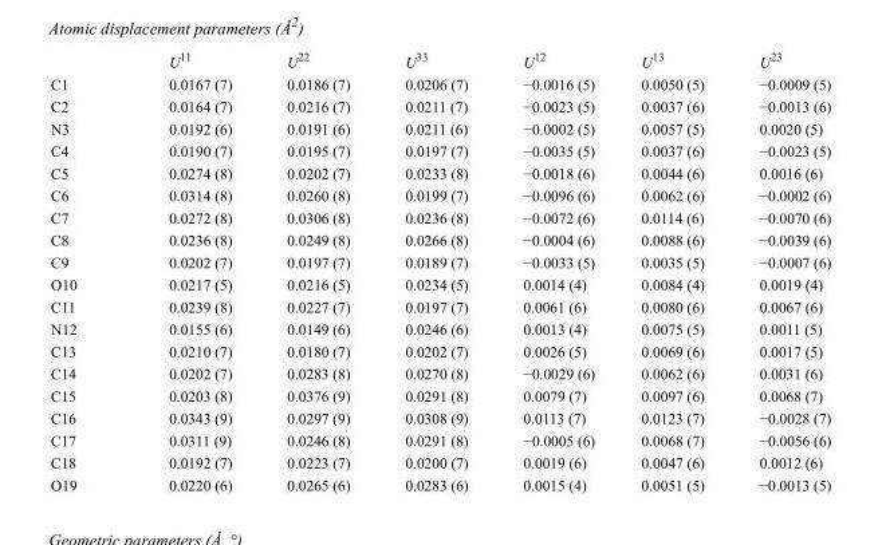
<table><thead><tr><td></td><td>U<sup>11</sup></td><td>U<sup>22</sup></td><td>U<sup>33</sup></td><td>U<sup>12</sup></td><td>U<sup>13</sup></td><td>U<sup>23</sup></td></tr></thead><tbody><tr><td>C1</td><td>0.0167 (7)</td><td>0.0186 (7)</td><td>0.0206 (7)</td><td>−0.0016 (5)</td><td>0.0050 (5)</td><td>−0.0009 (5)</td></tr><tr><td>C2</td><td>0.0164 (7)</td><td>0.0216 (7)</td><td>0.0211 (7)</td><td>−0.0023 (5)</td><td>0.0037 (6)</td><td>−0.0013 (6)</td></tr><tr><td>N3</td><td>0.0192 (6)</td><td>0.0191 (6)</td><td>0.0211 (6)</td><td>−0.0002 (5)</td><td>0.0057 (5)</td><td>0.0020 (5)</td></tr><tr><td>C4</td><td>0.0190 (7)</td><td>0.0195 (7)</td><td>0.0197 (7)</td><td>−0.0035 (5)</td><td>0.0037 (6)</td><td>−0.0023 (5)</td></tr><tr><td>C5</td><td>0.0274 (8)</td><td>0.0202 (7)</td><td>0.0233 (8)</td><td>−0.0018 (6)</td><td>0.0044 (6)</td><td>0.0016 (6)</td></tr><tr><td>C6</td><td>0.0314 (8)</td><td>0.0260 (8)</td><td>0.0199 (7)</td><td>−0.0096 (6)</td><td>0.0062 (6)</td><td>−0.0002 (6)</td></tr><tr><td>C7</td><td>0.0272 (8)</td><td>0.0306 (8)</td><td>0.0236 (8)</td><td>−0.0072 (6)</td><td>0.0114 (6)</td><td>−0.0070 (6)</td></tr><tr><td>C8</td><td>0.0236 (8)</td><td>0.0249 (8)</td><td>0.0266 (8)</td><td>−0.0004 (6)</td><td>0.0088 (6)</td><td>−0.0039 (6)</td></tr><tr><td>C9</td><td>0.0202 (7)</td><td>0.0197 (7)</td><td>0.0189 (7)</td><td>−0.0033 (5)</td><td>0.0035 (5)</td><td>−0.0007 (6)</td></tr><tr><td>O10</td><td>0.0217 (5)</td><td>0.0216 (5)</td><td>0.0234 (5)</td><td>0.0014 (4)</td><td>0.0084 (4)</td><td>0.0019 (4)</td></tr><tr><td>C11</td><td>0.0239 (8)</td><td>0.0227 (7)</td><td>0.0197 (7)</td><td>0.0061 (6)</td><td>0.0080 (6)</td><td>0.0067 (6)</td></tr><tr><td>N12</td><td>0.0155 (6)</td><td>0.0149 (6)</td><td>0.0246 (6)</td><td>0.0013 (4)</td><td>0.0075 (5)</td><td>0.0011 (5)</td></tr><tr><td>C13</td><td>0.0210 (7)</td><td>0.0180 (7)</td><td>0.0202 (7)</td><td>0.0026 (5)</td><td>0.0069 (6)</td><td>0.0017 (5)</td></tr><tr><td>C14</td><td>0.0202 (7)</td><td>0.0283 (8)</td><td>0.0270 (8)</td><td>−0.0029 (6)</td><td>0.0062 (6)</td><td>0.0031 (6)</td></tr><tr><td>C15</td><td>0.0203 (8)</td><td>0.0376 (9)</td><td>0.0291 (8)</td><td>0.0079 (7)</td><td>0.0097 (6)</td><td>0.0068 (7)</td></tr><tr><td>C16</td><td>0.0343 (9)</td><td>0.0297 (9)</td><td>0.0308 (9)</td><td>0.0113 (7)</td><td>0.0123 (7)</td><td>−0.0028 (7)</td></tr><tr><td>C17</td><td>0.0311 (9)</td><td>0.0246 (8)</td><td>0.0291 (8)</td><td>−0.0005 (6)</td><td>0.0068 (7)</td><td>−0.0056 (6)</td></tr><tr><td>C18</td><td>0.0192 (7)</td><td>0.0223 (7)</td><td>0.0200 (7)</td><td>0.0019 (6)</td><td>0.0047 (6)</td><td>0.0012 (6)</td></tr><tr><td>O19</td><td>0.0220 (6)</td><td>0.0265 (6)</td><td>0.0283 (6)</td><td>0.0015 (4)</td><td>0.0051 (5)</td><td>−0.0013 (5)</td></tr></tbody></table>